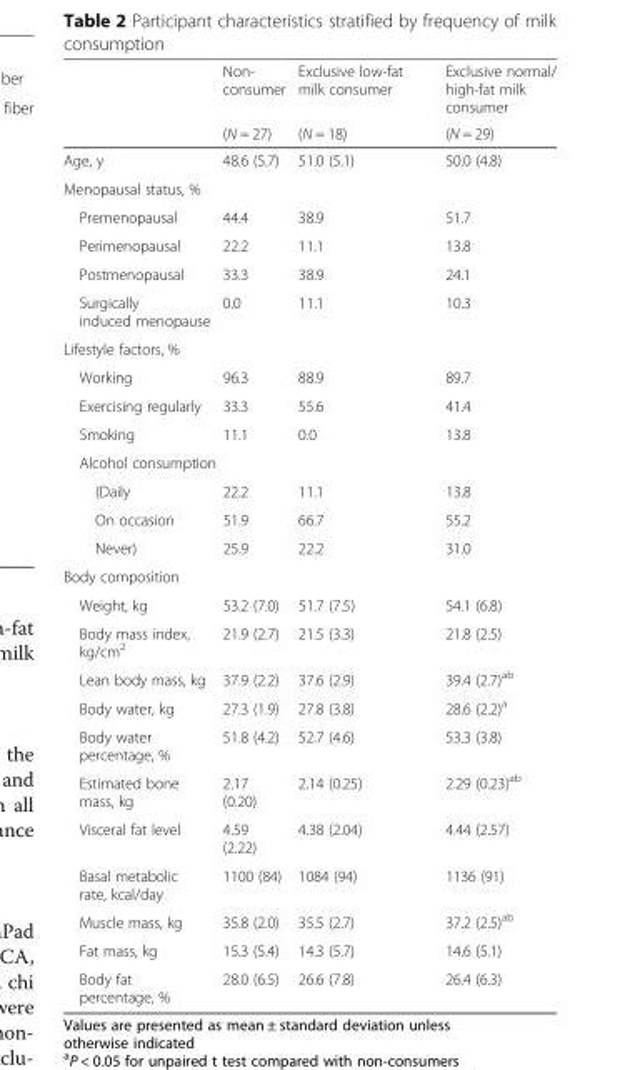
<table><thead><tr><td rowspan="2"></td><td rowspan="2">Non- consumer (N = 27)</td><td rowspan="2">Exclusive low-fat milk consumer (N = 18)</td><td rowspan="2">Exclusive normal/ high-fat milk consumer (N = 29)</td></tr><tr></tr></thead><tbody><tr><td>Age, y</td><td>48.6 (5.7)</td><td>51.0 (5.1)</td><td>50.0 (4.8)</td></tr><tr><td colspan="4">Menopausal status, %</td></tr><tr><td>Premenopausal</td><td>44.4</td><td>38.9</td><td>51.7</td></tr><tr><td>Perimenopausal</td><td>22.2</td><td>11.1</td><td>13.8</td></tr><tr><td>Postmenopausal</td><td>33.3</td><td>38.9</td><td>24.1</td></tr><tr><td>Surgically induced menopause</td><td>0.0</td><td>11.1</td><td>10.3</td></tr><tr><td colspan="4">Lifestyle factors, %</td></tr><tr><td>Working</td><td>96.3</td><td>88.9</td><td>89.7</td></tr><tr><td>Exercising regularly</td><td>33.3</td><td>55.6</td><td>41.4</td></tr><tr><td>Smoking</td><td>11.1</td><td>0.0</td><td>13.8</td></tr><tr><td colspan="4">Alcohol consumption</td></tr><tr><td>(Daily</td><td>22.2</td><td>11.1</td><td>13.8</td></tr><tr><td>On occasion</td><td>51.9</td><td>66.7</td><td>55.2</td></tr><tr><td>Never)</td><td>25.9</td><td>22.2</td><td>31.0</td></tr><tr><td colspan="4">Body composition</td></tr><tr><td>Weight, kg</td><td>53.2 (7.0)</td><td>51.7 (7.5)</td><td>54.1 (6.8)</td></tr><tr><td>Body mass index, kg/cm<sup>2</sup></td><td>21.9 (2.7)</td><td>21.5 (3.3)</td><td>21.8 (2.5)</td></tr><tr><td>Lean body mass, kg</td><td>37.9 (2.2)</td><td>37.6 (2.9)</td><td>39.4 (2.7)<sup>ab</sup></td></tr><tr><td>Body water, kg</td><td>27.3 (1.9)</td><td>27.8 (3.8)</td><td>28.6 (2.2)<sup>a</sup></td></tr><tr><td>Body water percentage, %</td><td>51.8 (4.2)</td><td>52.7 (4.6)</td><td>53.3 (3.8)</td></tr><tr><td>Estimated bone mass, kg</td><td>2.17 (0.20)</td><td>2.14 (0.25)</td><td>2.29 (0.23)<sup>ab</sup></td></tr><tr><td>Visceral fat level</td><td>4.59 (2.22)</td><td>4.38 (2.04)</td><td>4.44 (2.57)</td></tr><tr><td>Basal metabolic rate, kcal/day</td><td>1100 (84)</td><td>1084 (94)</td><td>1136 (91)</td></tr><tr><td>Muscle mass, kg</td><td>35.8 (2.0)</td><td>35.5 (2.7)</td><td>37.2 (2.5)<sup>ab</sup></td></tr><tr><td>Fat mass, kg</td><td>15.3 (5.4)</td><td>14.3 (5.7)</td><td>14.6 (5.1)</td></tr><tr><td>Body fat percentage, %</td><td>28.0 (6.5)</td><td>26.6 (7.8)</td><td>26.4 (6.3)</td></tr></tbody></table>